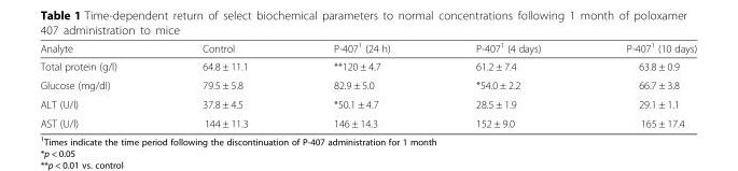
<table><thead><tr><td>Analyte</td><td>Control</td><td>P-407<sup>1</sup> (24 h)</td><td>P-407<sup>1</sup> (4 days)</td><td>P-407<sup>1</sup> (10 days)</td></tr></thead><tbody><tr><td>Total protein (g/l)</td><td>64.8 ± 11.1</td><td>**120 ± 4.7</td><td>61.2 ± 7.4</td><td>63.8 ± 0.9</td></tr><tr><td>Glucose (mg/dl)</td><td>79.5 ± 5.8</td><td>82.9 ± 5.0</td><td>*54.0 ± 2.2</td><td>66.7 ± 3.8</td></tr><tr><td>ALT (U/l)</td><td>37.8 ± 4.5</td><td>*50.1 ± 4.7</td><td>28.5 ± 1.9</td><td>29.1 ± 1.1</td></tr><tr><td>AST (U/l)</td><td>144 ± 11.3</td><td>146 ± 14.3</td><td>152 ± 9.0</td><td>165 ± 17.4</td></tr></tbody></table>